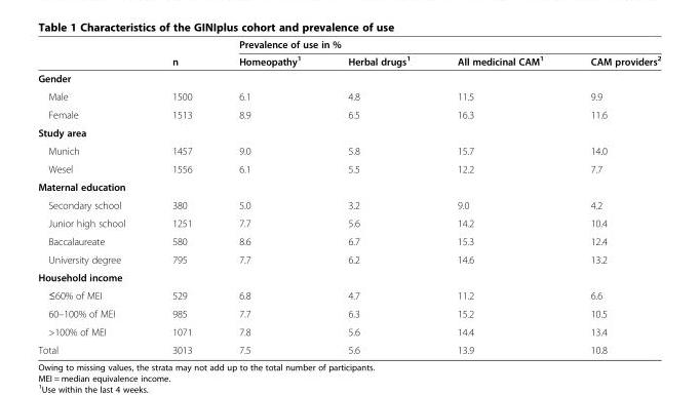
<table><thead><tr><td rowspan="2"></td><td rowspan="2">n</td><td colspan="4">Prevalence of use in %</td></tr><tr><td>Homeopathy<sup>1</sup></td><td>Herbal drugs<sup>1</sup></td><td>All medicinal CAM<sup>1</sup></td><td>CAM providers<sup>2</sup></td></tr></thead><tbody><tr><td colspan="6">Gender</td></tr><tr><td>Male</td><td>1500</td><td>6.1</td><td>4.8</td><td>11.5</td><td>9.9</td></tr><tr><td>Female</td><td>1513</td><td>8.9</td><td>6.5</td><td>16.3</td><td>11.6</td></tr><tr><td colspan="6">Study area</td></tr><tr><td>Munich</td><td>1457</td><td>9.0</td><td>5.8</td><td>15.7</td><td>14.0</td></tr><tr><td>Wesel</td><td>1556</td><td>6.1</td><td>5.5</td><td>12.2</td><td>7.7</td></tr><tr><td colspan="6">Maternal education</td></tr><tr><td>Secondary school</td><td>380</td><td>5.0</td><td>3.2</td><td>9.0</td><td>4.2</td></tr><tr><td>Junior high school</td><td>1251</td><td>7.7</td><td>5.6</td><td>14.2</td><td>10.4</td></tr><tr><td>Baccalaureate</td><td>580</td><td>8.6</td><td>6.7</td><td>15.3</td><td>12.4</td></tr><tr><td>University degree</td><td>795</td><td>7.7</td><td>6.2</td><td>14.6</td><td>13.2</td></tr><tr><td colspan="6">Household income</td></tr><tr><td>≤60% of MEI</td><td>529</td><td>6.8</td><td>4.7</td><td>11.2</td><td>6.6</td></tr><tr><td>60–100% of MEI</td><td>985</td><td>7.7</td><td>6.3</td><td>15.2</td><td>10.5</td></tr><tr><td>&gt;100% of MEI</td><td>1071</td><td>7.8</td><td>5.6</td><td>14.4</td><td>13.4</td></tr><tr><td>Total</td><td>3013</td><td>7.5</td><td>5.6</td><td>13.9</td><td>10.8</td></tr></tbody></table>